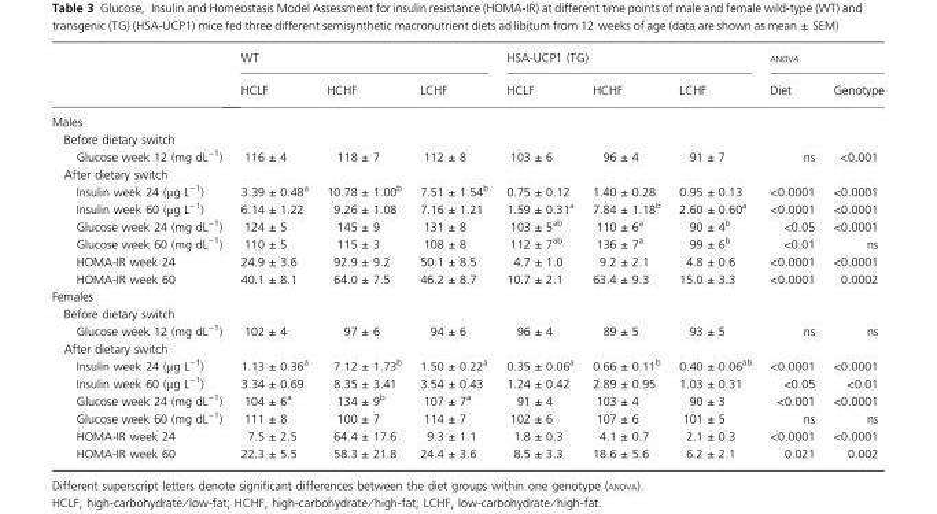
<table><thead><tr><td rowspan="2"></td><td colspan="3">WT</td><td colspan="3">HSA-UCP1 (TG)</td><td colspan="2">ANOVA</td></tr><tr><td>HCLF</td><td>HCHF</td><td>LCHF</td><td>HCLF</td><td>HCHF</td><td>LCHF</td><td>Diet</td><td>Genotype</td></tr></thead><tbody><tr><td colspan="9">Males</td></tr><tr><td colspan="9">Before dietary switch</td></tr><tr><td>Glucose week 12 (mg dL<sup>−1</sup>)</td><td>116 ± 4</td><td>118 ± 7</td><td>112 ± 8</td><td>103 ± 6</td><td>96 ± 4</td><td>91 ± 7</td><td>ns</td><td>&lt;0.001</td></tr><tr><td colspan="9">After dietary switch</td></tr><tr><td>Insulin week 24 (μg L<sup>−1</sup>)</td><td>3.39 ± 0.48<sup>a</sup></td><td>10.78 ± 1.00<sup>b</sup></td><td>7.51 ± 1.54<sup>b</sup></td><td>0.75 ± 0.12</td><td>1.40 ± 0.28</td><td>0.95 ± 0.13</td><td>&lt;0.0001</td><td>&lt;0.0001</td></tr><tr><td>Insulin week 60 (μg L<sup>−1</sup>)</td><td>6.14 ± 1.22</td><td>9.26 ± 1.08</td><td>7.16 ± 1.21</td><td>1.59 ± 0.31<sup>a</sup></td><td>7.84 ± 1.18<sup>b</sup></td><td>2.60 ± 0.60<sup>a</sup></td><td>&lt;0.0001</td><td>&lt;0.0001</td></tr><tr><td>Glucose week 24 (mg dL<sup>−1</sup>)</td><td>124 ± 5</td><td>145 ± 9</td><td>131 ± 8</td><td>103 ± 5<sup>ab</sup></td><td>110 ± 6<sup>a</sup></td><td>90 ± 4<sup>b</sup></td><td>&lt;0.05</td><td>&lt;0.0001</td></tr><tr><td>Glucose week 60 (mg dL<sup>−1</sup>)</td><td>110 ± 5</td><td>115 ± 3</td><td>108 ± 8</td><td>112 ± 7<sup>ab</sup></td><td>136 ± 7<sup>a</sup></td><td>99 ± 6<sup>b</sup></td><td>&lt;0.01</td><td>ns</td></tr><tr><td>HOMA-IR week 24</td><td>24.9 ± 3.6</td><td>92.9 ± 9.2</td><td>50.1 ± 8.5</td><td>4.7 ± 1.0</td><td>9.2 ± 2.1</td><td>4.8 ± 0.6</td><td>&lt;0.0001</td><td>&lt;0.0001</td></tr><tr><td>HOMA-IR week 60</td><td>40.1 ± 8.1</td><td>64.0 ± 7.5</td><td>46.2 ± 8.7</td><td>10.7 ± 2.1</td><td>63.4 ± 9.3</td><td>15.0 ± 3.3</td><td>&lt;0.0001</td><td>0.0002</td></tr><tr><td colspan="9">Females</td></tr><tr><td colspan="9">Before dietary switch</td></tr><tr><td>Glucose week 12 (mg dL<sup>−1</sup>)</td><td>102 ± 4</td><td>97 ± 6</td><td>94 ± 6</td><td>96 ± 4</td><td>89 ± 5</td><td>93 ± 5</td><td>ns</td><td>ns</td></tr><tr><td colspan="9">After dietary switch</td></tr><tr><td>Insulin week 24 (μg L<sup>−1</sup>)</td><td>1.13 ± 0.36<sup>a</sup></td><td>7.12 ± 1.73<sup>b</sup></td><td>1.50 ± 0.22<sup>a</sup></td><td>0.35 ± 0.06<sup>a</sup></td><td>0.66 ± 0.11<sup>b</sup></td><td>0.40 ± 0.06<sup>ab</sup></td><td>&lt;0.0001</td><td>&lt;0.0001</td></tr><tr><td>Insulin week 60 (μg L<sup>−1</sup>)</td><td>3.34 ± 0.69</td><td>8.35 ± 3.41</td><td>3.54 ± 0.43</td><td>1.24 ± 0.42</td><td>2.89 ± 0.95</td><td>1.03 ± 0.31</td><td>&lt;0.05</td><td>&lt;0.01</td></tr><tr><td>Glucose week 24 (mg dL<sup>−1</sup>)</td><td>104 ± 6<sup>a</sup></td><td>134 ± 9<sup>b</sup></td><td>107 ± 7<sup>a</sup></td><td>91 ± 4</td><td>103 ± 4</td><td>90 ± 3</td><td>&lt;0.001</td><td>&lt;0.0001</td></tr><tr><td>Glucose week 60 (mg dL<sup>−1</sup>)</td><td>111 ± 8</td><td>100 ± 7</td><td>114 ± 7</td><td>102 ± 6</td><td>107 ± 6</td><td>101 ± 5</td><td>ns</td><td>ns</td></tr><tr><td>HOMA-IR week 24</td><td>7.5 ± 2.5</td><td>64.4 ± 17.6</td><td>9.3 ± 1.1</td><td>1.8 ± 0.3</td><td>4.1 ± 0.7</td><td>2.1 ± 0.3</td><td>&lt;0.0001</td><td>&lt;0.0001</td></tr><tr><td>HOMA-IR week 60</td><td>22.3 ± 5.5</td><td>58.3 ± 21.8</td><td>24.4 ± 3.6</td><td>8.5 ± 3.3</td><td>18.6 ± 5.6</td><td>6.2 ± 2.1</td><td>0.021</td><td>0.002</td></tr></tbody></table>